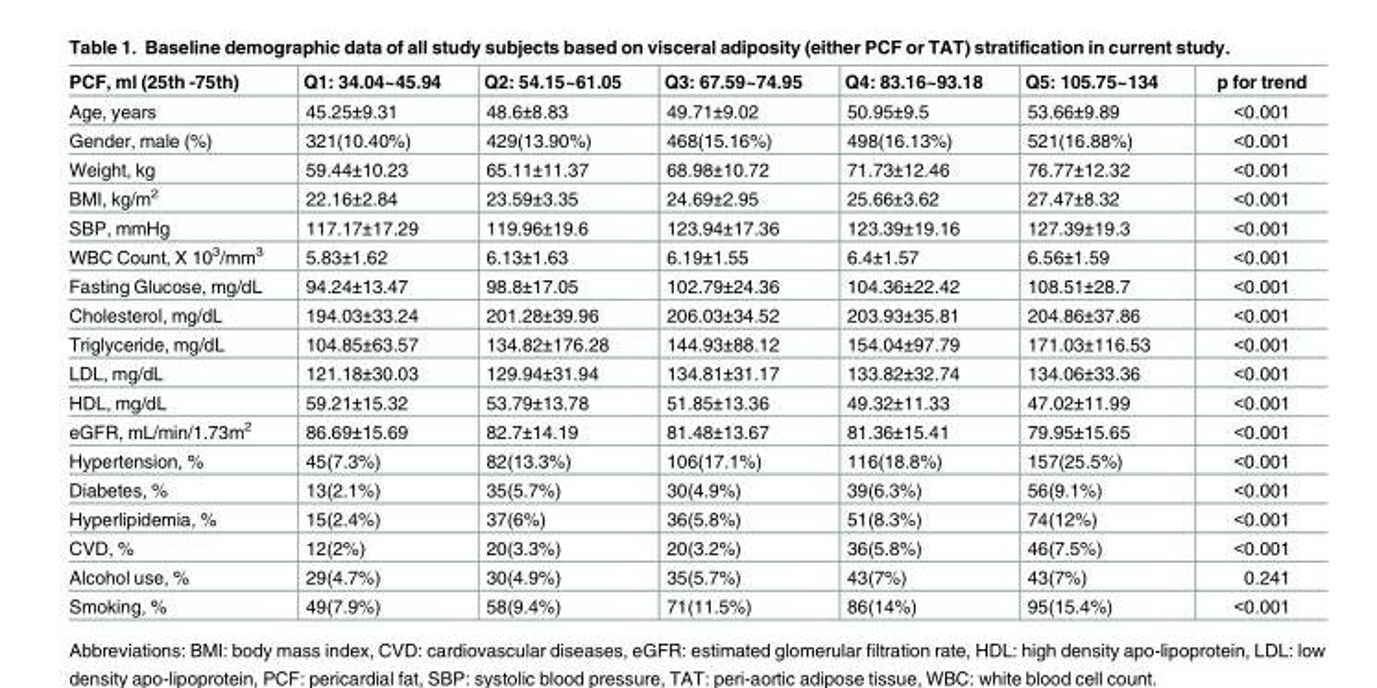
<table><thead><tr><td>PCF, ml (25th -75th)</td><td>Q1: 34.04~45.94</td><td>Q2: 54.15~61.05</td><td>Q3: 67.59~74.95</td><td>Q4: 83.16~93.18</td><td>Q5: 105.75~134</td><td>p for trend</td></tr></thead><tbody><tr><td>Age, years</td><td>45.25±9.31</td><td>48.6±8.83</td><td>49.71±9.02</td><td>50.95±9.5</td><td>53.66±9.89</td><td>&lt;0.001</td></tr><tr><td>Gender, male (%)</td><td>321(10.40%)</td><td>429(13.90%)</td><td>468(15.16%)</td><td>498(16.13%)</td><td>521(16.88%)</td><td>&lt;0.001</td></tr><tr><td>Weight, kg</td><td>59.44±10.23</td><td>65.11±11.37</td><td>68.98±10.72</td><td>71.73±12.46</td><td>76.77±12.32</td><td>&lt;0.001</td></tr><tr><td>BMI, kg/m<sup>2</sup></td><td>22.16±2.84</td><td>23.59±3.35</td><td>24.69±2.95</td><td>25.66±3.62</td><td>27.47±8.32</td><td>&lt;0.001</td></tr><tr><td>SBP, mmHg</td><td>117.17±17.29</td><td>119.96±19.6</td><td>123.94±17.36</td><td>123.39±19.16</td><td>127.39±19.3</td><td>&lt;0.001</td></tr><tr><td>WBC Count, X 10<sup>3</sup>/mm<sup>3</sup></td><td>5.83±1.62</td><td>6.13±1.63</td><td>6.19±1.55</td><td>6.4±1.57</td><td>6.56±1.59</td><td>&lt;0.001</td></tr><tr><td>Fasting Glucose, mg/dL</td><td>94.24±13.47</td><td>98.8±17.05</td><td>102.79±24.36</td><td>104.36±22.42</td><td>108.51±28.7</td><td>&lt;0.001</td></tr><tr><td>Cholesterol, mg/dL</td><td>194.03±33.24</td><td>201.28±39.96</td><td>206.03±34.52</td><td>203.93±35.81</td><td>204.86±37.86</td><td>&lt;0.001</td></tr><tr><td>Triglyceride, mg/dL</td><td>104.85±63.57</td><td>134.82±176.28</td><td>144.93±88.12</td><td>154.04±97.79</td><td>171.03±116.53</td><td>&lt;0.001</td></tr><tr><td>LDL, mg/dL</td><td>121.18±30.03</td><td>129.94±31.94</td><td>134.81±31.17</td><td>133.82±32.74</td><td>134.06±33.36</td><td>&lt;0.001</td></tr><tr><td>HDL, mg/dL</td><td>59.21±15.32</td><td>53.79±13.78</td><td>51.85±13.36</td><td>49.32±11.33</td><td>47.02±11.99</td><td>&lt;0.001</td></tr><tr><td>eGFR, mL/min/1.73m<sup>2</sup></td><td>86.69±15.69</td><td>82.7±14.19</td><td>81.48±13.67</td><td>81.36±15.41</td><td>79.95±15.65</td><td>&lt;0.001</td></tr><tr><td>Hypertension, %</td><td>45(7.3%)</td><td>82(13.3%)</td><td>106(17.1%)</td><td>116(18.8%)</td><td>157(25.5%)</td><td>&lt;0.001</td></tr><tr><td>Diabetes, %</td><td>13(2.1%)</td><td>35(5.7%)</td><td>30(4.9%)</td><td>39(6.3%)</td><td>56(9.1%)</td><td>&lt;0.001</td></tr><tr><td>Hyperlipidemia, %</td><td>15(2.4%)</td><td>37(6%)</td><td>36(5.8%)</td><td>51(8.3%)</td><td>74(12%)</td><td>&lt;0.001</td></tr><tr><td>CVD, %</td><td>12(2%)</td><td>20(3.3%)</td><td>20(3.2%)</td><td>36(5.8%)</td><td>46(7.5%)</td><td>&lt;0.001</td></tr><tr><td>Alcohol use, %</td><td>29(4.7%)</td><td>30(4.9%)</td><td>35(5.7%)</td><td>43(7%)</td><td>43(7%)</td><td>0.241</td></tr><tr><td>Smoking, %</td><td>49(7.9%)</td><td>58(9.4%)</td><td>71(11.5%)</td><td>86(14%)</td><td>95(15.4%)</td><td>&lt;0.001</td></tr></tbody></table>